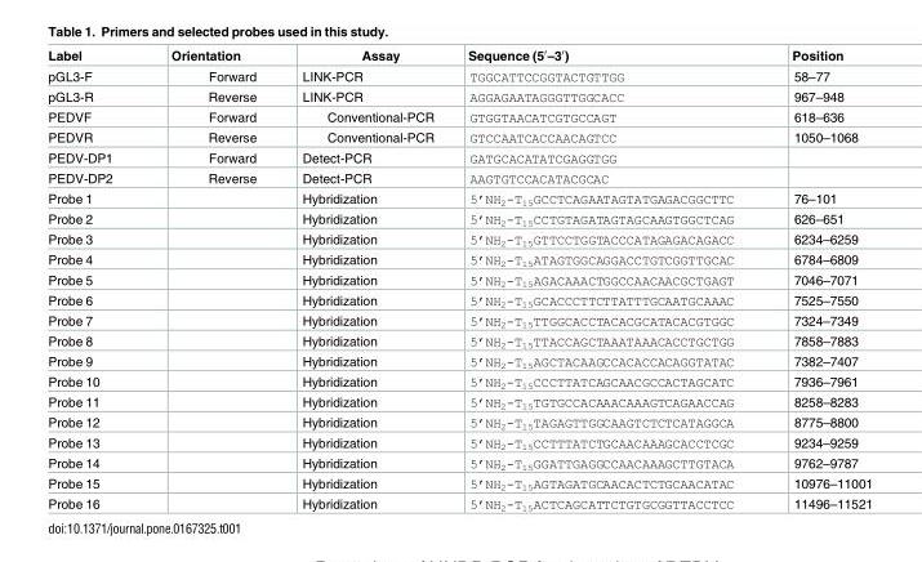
<table><thead><tr><td>Label</td><td>Orientation</td><td>Assay</td><td>Sequence (5′–3′)</td><td>Position</td></tr></thead><tbody><tr><td>pGL3-F</td><td>Forward</td><td>LINK-PCR</td><td>TGGCATTCCGGTACTGTTGG</td><td>58–77</td></tr><tr><td>pGL3-R</td><td>Reverse</td><td>LINK-PCR</td><td>AGGAGAATAGGGTTGGCACC</td><td>967–948</td></tr><tr><td>PEDVF</td><td>Forward</td><td>Conventional-PCR</td><td>GTGGTAACATCGTGCCAGT</td><td>618–636</td></tr><tr><td>PEDVR</td><td>Reverse</td><td>Conventional-PCR</td><td>GTCCAATCACCAACAGTCC</td><td>1050–1068</td></tr><tr><td>PEDV-DP1</td><td>Forward</td><td>Detect-PCR</td><td>GATGCACATATCGAGGTGG</td><td></td></tr><tr><td>PEDV-DP2</td><td>Reverse</td><td>Detect-PCR</td><td>AAGTGTCCACATACGCAC</td><td></td></tr><tr><td>Probe 1</td><td></td><td>Hybridization</td><td>5’NH<sub>2</sub>-T<sub>15</sub>GCCTCAGAATAGTATGAGACGGCTTC</td><td>76–101</td></tr><tr><td>Probe 2</td><td></td><td>Hybridization</td><td>5’NH<sub>2</sub>-T<sub>15</sub>CCTGTAGATAGTAGCAAGTGGCTCAG</td><td>626–651</td></tr><tr><td>Probe 3</td><td></td><td>Hybridization</td><td>5’NH<sub>2</sub>-T<sub>15</sub>GTTCCTGGTACCCATAGAGACAGACC</td><td>6234–6259</td></tr><tr><td>Probe 4</td><td></td><td>Hybridization</td><td>5’NH<sub>2</sub>-T<sub>15</sub>ATAGTGGCAGGACCTGTCGGTTGCAC</td><td>6784–6809</td></tr><tr><td>Probe 5</td><td></td><td>Hybridization</td><td>5’NH<sub>2</sub>-T<sub>15</sub>AGACAAACTGGCCAACAACGCTGAGT</td><td>7046–7071</td></tr><tr><td>Probe 6</td><td></td><td>Hybridization</td><td>5’NH<sub>2</sub>-T<sub>15</sub>GCACCCTTCTTATTTGCAATGCAAAC</td><td>7525–7550</td></tr><tr><td>Probe 7</td><td></td><td>Hybridization</td><td>5’NH<sub>2</sub>-T<sub>15</sub>TTGGCACCTACACGCATACACGTGGC</td><td>7324–7349</td></tr><tr><td>Probe 8</td><td></td><td>Hybridization</td><td>5’NH<sub>2</sub>-T<sub>15</sub>TTACCAGCTAAATAAACACCTGCTGG</td><td>7858–7883</td></tr><tr><td>Probe 9</td><td></td><td>Hybridization</td><td>5’NH<sub>2</sub>-T<sub>15</sub>AGCTACAAGCCACACCACAGGTATAC</td><td>7382–7407</td></tr><tr><td>Probe 10</td><td></td><td>Hybridization</td><td>5’NH<sub>2</sub>-T<sub>15</sub>CCCTTATCAGCAACGCCACTAGCATC</td><td>7936–7961</td></tr><tr><td>Probe 11</td><td></td><td>Hybridization</td><td>5’NH<sub>2</sub>-T<sub>15</sub>TGTGCCACAAACAAAGTCAGAACCAG</td><td>8258–8283</td></tr><tr><td>Probe 12</td><td></td><td>Hybridization</td><td>5’NH<sub>2</sub>-T<sub>15</sub>TAGAGTTGGCAAGTCTCTCATAGGCA</td><td>8775–8800</td></tr><tr><td>Probe 13</td><td></td><td>Hybridization</td><td>5’NH<sub>2</sub>-T<sub>15</sub>CCTTTATCTGCAACAAAGCACCTCGC</td><td>9234–9259</td></tr><tr><td>Probe 14</td><td></td><td>Hybridization</td><td>5’NH<sub>2</sub>-T<sub>15</sub>GGATTGAGGCCAACAAAGCTTGTACA</td><td>9762–9787</td></tr><tr><td>Probe 15</td><td></td><td>Hybridization</td><td>5’NH<sub>2</sub>-T<sub>15</sub>AGTAGATGCAACACTCTGCAACATAC</td><td>10976–11001</td></tr><tr><td>Probe 16</td><td></td><td>Hybridization</td><td>5’NH<sub>2</sub>-T<sub>15</sub>ACTCAGCATTCTGTGCGGTTACCTCC</td><td>11496–11521</td></tr></tbody></table>